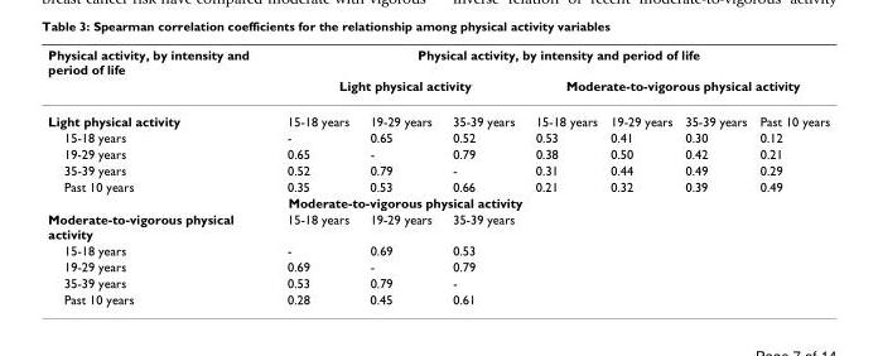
<table><thead><tr><td rowspan="3">Physical activity, by intensity and period of life Light physical activity</td><td colspan="7">Physical activity, by intensity and period of life</td></tr><tr><td colspan="3">Light physical activity</td><td colspan="4">Moderate-to-vigorous physical activity</td></tr><tr><td>15-18 years</td><td>19-29 years</td><td>35-39 years</td><td>15-18 years</td><td>19-29 years</td><td>35-39 years</td><td>Past 10 years</td></tr></thead><tbody><tr><td>15-18 years</td><td>-</td><td>0.65</td><td>0.52</td><td>0.53</td><td>0.41</td><td>0.30</td><td>0.12</td></tr><tr><td>19-29 years</td><td>0.65</td><td>-</td><td>0.79</td><td>0.38</td><td>0.50</td><td>0.42</td><td>0.21</td></tr><tr><td>35-39 years</td><td>0.52</td><td>0.79</td><td>-</td><td>0.31</td><td>0.44</td><td>0.49</td><td>0.29</td></tr><tr><td rowspan="2">Past 10 years</td><td>0.35</td><td>0.53</td><td>0.66</td><td>0.21</td><td>0.32</td><td>0.39</td><td>0.49</td></tr><tr><td colspan="3">Moderate-to-vigorous physical activity</td><td></td><td></td><td></td><td></td></tr><tr><td>Moderate-to-vigorous physical activity</td><td>15-18 years</td><td>19-29 years</td><td>35-39 years</td><td></td><td></td><td></td><td></td></tr><tr><td>15-18 years</td><td>-</td><td>0.69</td><td>0.53</td><td></td><td></td><td></td><td></td></tr><tr><td>19-29 years</td><td>0.69</td><td>-</td><td>0.79</td><td></td><td></td><td></td><td></td></tr><tr><td>35-39 years</td><td>0.53</td><td>0.79</td><td>-</td><td></td><td></td><td></td><td></td></tr><tr><td>Past 10 years</td><td>0.28</td><td>0.45</td><td>0.61</td><td></td><td></td><td></td><td></td></tr></tbody></table>